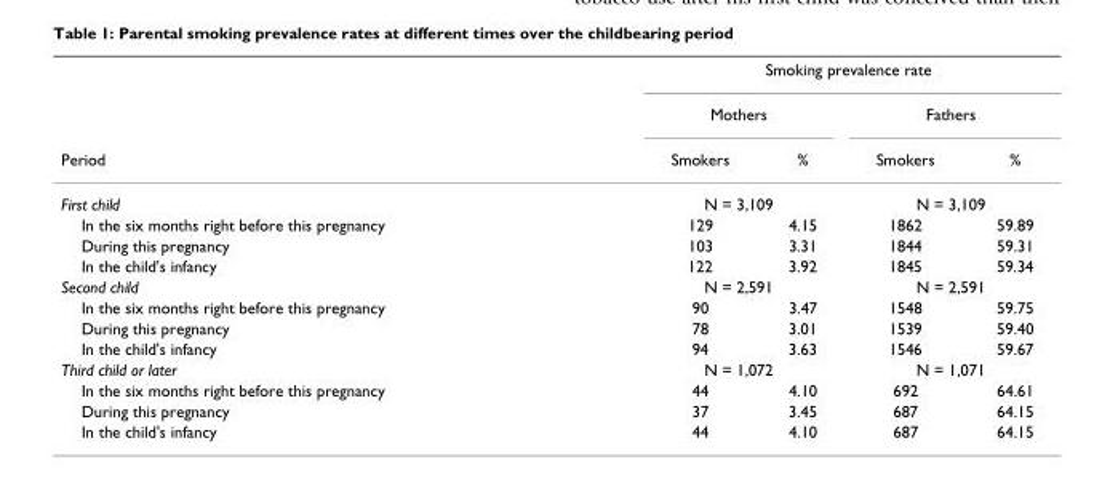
<table><thead><tr><td rowspan="3">Period</td><td colspan="4">Smoking prevalence rate</td></tr><tr><td colspan="2">Mothers</td><td colspan="2">Fathers</td></tr><tr><td>Smokers</td><td>%</td><td>Smokers</td><td>%</td></tr></thead><tbody><tr><td>First child</td><td colspan="2">N = 3,109</td><td colspan="2">N = 3,109</td></tr><tr><td>In the six months right before this pregnancy</td><td>129</td><td>4.15</td><td>1862</td><td>59.89</td></tr><tr><td>During this pregnancy</td><td>103</td><td>3.31</td><td>1844</td><td>59.31</td></tr><tr><td>In the child&#x27;s infancy</td><td>122</td><td>3.92</td><td>1845</td><td>59.34</td></tr><tr><td>Second child</td><td colspan="2">N = 2,591</td><td colspan="2">N = 2,591</td></tr><tr><td>In the six months right before this pregnancy</td><td>90</td><td>3.47</td><td>1548</td><td>59.75</td></tr><tr><td>During this pregnancy</td><td>78</td><td>3.01</td><td>1539</td><td>59.40</td></tr><tr><td>In the child&#x27;s infancy</td><td>94</td><td>3.63</td><td>1546</td><td>59.67</td></tr><tr><td>Third child or later</td><td colspan="2">N = 1,072</td><td colspan="2">N = 1,071</td></tr><tr><td>In the six months right before this pregnancy</td><td>44</td><td>4.10</td><td>692</td><td>64.61</td></tr><tr><td>During this pregnancy</td><td>37</td><td>3.45</td><td>687</td><td>64.15</td></tr><tr><td>In the child&#x27;s infancy</td><td>44</td><td>4.10</td><td>687</td><td>64.15</td></tr></tbody></table>